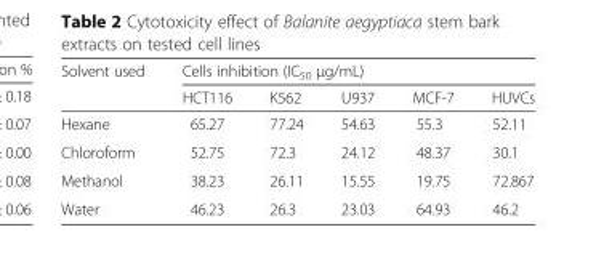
<table><thead><tr><td rowspan="2">Solvent used</td><td colspan="5">Cells inhibition (IC<sub>50</sub> μg/mL)</td></tr><tr><td>HCT116</td><td>K562</td><td>U937</td><td>MCF-7</td><td>HUVCs</td></tr></thead><tbody><tr><td>Hexane</td><td>65.27</td><td>77.24</td><td>54.63</td><td>55.3</td><td>52.11</td></tr><tr><td>Chloroform</td><td>52.75</td><td>72.3</td><td>24.12</td><td>48.37</td><td>30.1</td></tr><tr><td>Methanol</td><td>38.23</td><td>26.11</td><td>15.55</td><td>19.75</td><td>72.867</td></tr><tr><td>Water</td><td>46.23</td><td>26.3</td><td>23.03</td><td>64.93</td><td>46.2</td></tr></tbody></table>